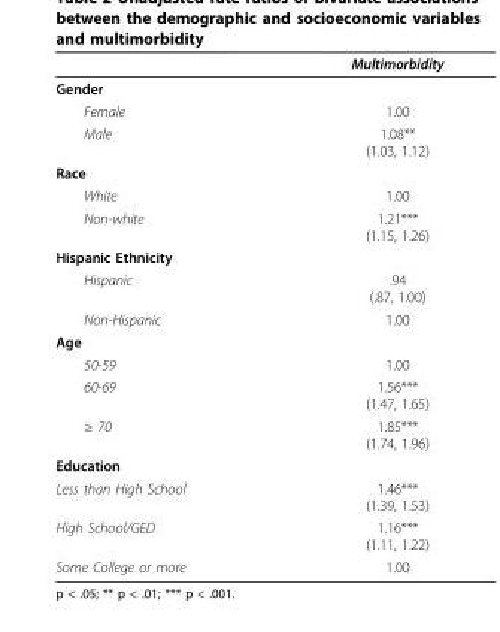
<table><thead><tr><td></td><td>Multimorbidity</td></tr></thead><tbody><tr><td colspan="2">Gender</td></tr><tr><td>Female</td><td>1.00</td></tr><tr><td>Male</td><td>1.08** (1.03, 1.12)</td></tr><tr><td colspan="2">Race</td></tr><tr><td>White</td><td>1.00</td></tr><tr><td>Non-white</td><td>1.21*** (1.15, 1.26)</td></tr><tr><td colspan="2">Hispanic Ethnicity</td></tr><tr><td>Hispanic</td><td>.94 (.87, 1.00)</td></tr><tr><td>Non-Hispanic</td><td>1.00</td></tr><tr><td colspan="2">Age</td></tr><tr><td>50-59</td><td>1.00</td></tr><tr><td>60-69</td><td>1.56*** (1.47, 1.65)</td></tr><tr><td>≥ 70</td><td>1.85*** (1.74, 1.96)</td></tr><tr><td colspan="2">Education</td></tr><tr><td>Less than High School</td><td>1.46*** (1.39, 1.53)</td></tr><tr><td>High School/GED</td><td>1.16*** (1.11, 1.22)</td></tr><tr><td>Some College or more</td><td>1.00</td></tr></tbody></table>